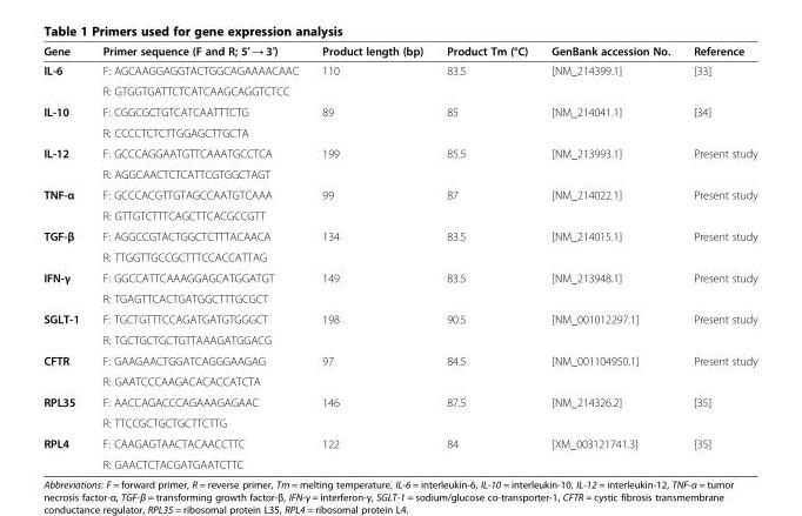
<table><thead><tr><td>Gene</td><td>Primer sequence (F and R; 5′ → 3′)</td><td>Product length (bp)</td><td>Product Tm (°C)</td><td>GenBank accession No.</td><td>Reference</td></tr></thead><tbody><tr><td rowspan="2">IL-6</td><td>F: AGCAAGGAGGTACTGGCAGAAAACAAC</td><td rowspan="2">110</td><td rowspan="2">83.5</td><td rowspan="2">[NM_214399.1]</td><td rowspan="2">[33]</td></tr><tr><td>R: GTGGTGATTCTCATCAAGCAGGTCTCC</td></tr><tr><td rowspan="2">IL-10</td><td>F: CGGCGCTGTCATCAATTTCTG</td><td rowspan="2">89</td><td rowspan="2">85</td><td rowspan="2">[NM_214041.1]</td><td rowspan="2">[34]</td></tr><tr><td>R: CCCCTCTCTTGGAGCTTGCTA</td></tr><tr><td rowspan="2">IL-12</td><td>F: GCCCAGGAATGTTCAAATGCCTCA</td><td rowspan="2">199</td><td rowspan="2">85.5</td><td rowspan="2">[NM_213993.1]</td><td rowspan="2">Present study</td></tr><tr><td>R: AGGCAACTCTCATTCGTGGCTAGT</td></tr><tr><td rowspan="2">TNF-α</td><td>F: GCCCACGTTGTAGCCAATGTCAAA</td><td rowspan="2">99</td><td rowspan="2">87</td><td rowspan="2">[NM_214022.1]</td><td rowspan="2">Present study</td></tr><tr><td>R: GTTGTCTTTCAGCTTCACGCCGTT</td></tr><tr><td rowspan="2">TGF-β</td><td>F: AGGCCGTACTGGCTCTTTACAACA</td><td rowspan="2">134</td><td rowspan="2">83.5</td><td rowspan="2">[NM_214015.1]</td><td rowspan="2">Present study</td></tr><tr><td>R: TTGGTTGCCGCTTTCCACCATTAG</td></tr><tr><td rowspan="2">IFN-γ</td><td>F: GGCCATTCAAAGGAGCATGGATGT</td><td rowspan="2">149</td><td rowspan="2">83.5</td><td rowspan="2">[NM_213948.1]</td><td rowspan="2">Present study</td></tr><tr><td>R: TGAGTTCACTGATGGCTTTGCGCT</td></tr><tr><td rowspan="2">SGLT-1</td><td>F: TGCTGTTTCCAGATGATGTGGGCT</td><td rowspan="2">198</td><td rowspan="2">90.5</td><td rowspan="2">[NM_001012297.1]</td><td rowspan="2">Present study</td></tr><tr><td>R: TGCTGCTGCTGTTAAAGATGGACG</td></tr><tr><td rowspan="2">CFTR</td><td>F: GAAGAACTGGATCAGGGAAGAG</td><td rowspan="2">97</td><td rowspan="2">84.5</td><td rowspan="2">[NM_001104950.1]</td><td rowspan="2">Present study</td></tr><tr><td>R: GAATCCCAAGACACACCATCTA</td></tr><tr><td rowspan="2">RPL35</td><td>F: AACCAGACCCAGAAAGAGAAC</td><td rowspan="2">146</td><td rowspan="2">87.5</td><td rowspan="2">[NM_214326.2]</td><td rowspan="2">[35]</td></tr><tr><td>R: TTCCGCTGCTGCTTCTTG</td></tr><tr><td rowspan="2">RPL4</td><td>F: CAAGAGTAACTACAACCTTC</td><td rowspan="2">122</td><td rowspan="2">84</td><td rowspan="2">[XM_003121741.3]</td><td rowspan="2">[35]</td></tr><tr><td>R: GAACTCTACGATGAATCTTC</td></tr></tbody></table>